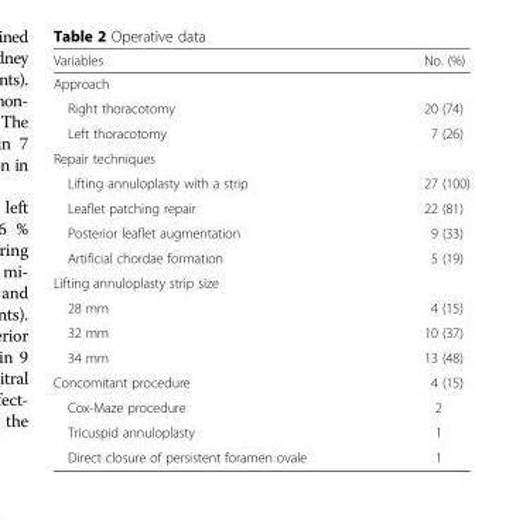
<table><thead><tr><td>Variables</td><td>No. (%)</td></tr></thead><tbody><tr><td colspan="2">Approach</td></tr><tr><td>Right thoracotomy</td><td>20 (74)</td></tr><tr><td>Left thoracotomy</td><td>7 (26)</td></tr><tr><td colspan="2">Repair techniques</td></tr><tr><td>Lifting annuloplasty with a strip</td><td>27 (100)</td></tr><tr><td>Leaflet patching repair</td><td>22 (81)</td></tr><tr><td>Posterior leaflet augmentation</td><td>9 (33)</td></tr><tr><td>Artificial chordae formation</td><td>5 (19)</td></tr><tr><td colspan="2">Lifting annuloplasty strip size</td></tr><tr><td>28 mm</td><td>4 (15)</td></tr><tr><td>32 mm</td><td>10 (37)</td></tr><tr><td>34 mm</td><td>13 (48)</td></tr><tr><td>Concomitant procedure</td><td>4 (15)</td></tr><tr><td>Cox-Maze procedure</td><td>2</td></tr><tr><td>Tricuspid annuloplasty</td><td>1</td></tr><tr><td>Direct closure of persistent foramen ovale</td><td>1</td></tr></tbody></table>